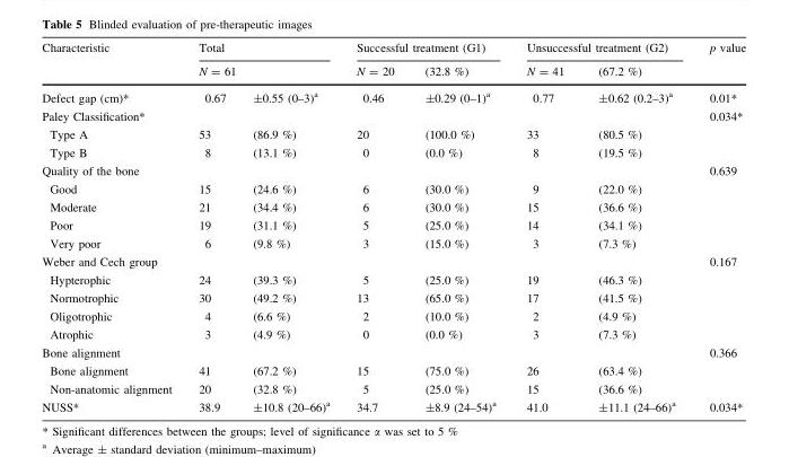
<table><thead><tr><td rowspan="3">Characteristic Defect gap (cm)*</td><td rowspan="2" colspan="2">Total N = 61</td><td colspan="2">Successful treatment (G1)</td><td colspan="2">Unsuccessful treatment (G2)</td><td rowspan="3">p value 0.01*</td></tr><tr><td rowspan="2">N = 20 0.46</td><td rowspan="2">(32.8 %) ±0.29 (0–1)a</td><td rowspan="2">N = 41 0.77</td><td rowspan="2">(67.2 %) ±0.62 (0.2–3)a</td></tr><tr><td>0.67</td><td>±0.55 (0–3)<sup>a</sup></td></tr></thead><tbody><tr><td>Paley Classification*</td><td></td><td></td><td></td><td></td><td></td><td></td><td>0.034*</td></tr><tr><td>Type A</td><td>53</td><td>(86.9 %)</td><td>20</td><td>(100.0 %)</td><td>33</td><td>(80.5 %)</td><td></td></tr><tr><td>Type B</td><td>8</td><td>(13.1 %)</td><td>0</td><td>(0.0 %)</td><td>8</td><td>(19.5 %)</td><td></td></tr><tr><td>Quality of the bone</td><td></td><td></td><td></td><td></td><td></td><td></td><td>0.639</td></tr><tr><td>Good</td><td>15</td><td>(24.6 %)</td><td>6</td><td>(30.0 %)</td><td>9</td><td>(22.0 %)</td><td></td></tr><tr><td>Moderate</td><td>21</td><td>(34.4 %)</td><td>6</td><td>(30.0 %)</td><td>15</td><td>(36.6 %)</td><td></td></tr><tr><td>Poor</td><td>19</td><td>(31.1 %)</td><td>5</td><td>(25.0 %)</td><td>14</td><td>(34.1 %)</td><td></td></tr><tr><td>Very poor</td><td>6</td><td>(9.8 %)</td><td>3</td><td>(15.0 %)</td><td>3</td><td>(7.3 %)</td><td></td></tr><tr><td>Weber and Cech group</td><td></td><td></td><td></td><td></td><td></td><td></td><td>0.167</td></tr><tr><td>Hypterophic</td><td>24</td><td>(39.3 %)</td><td>5</td><td>(25.0 %)</td><td>19</td><td>(46.3 %)</td><td></td></tr><tr><td>Normotrophic</td><td>30</td><td>(49.2 %)</td><td>13</td><td>(65.0 %)</td><td>17</td><td>(41.5 %)</td><td></td></tr><tr><td>Oligotrophic</td><td>4</td><td>(6.6 %)</td><td>2</td><td>(10.0 %)</td><td>2</td><td>(4.9 %)</td><td></td></tr><tr><td>Atrophic</td><td>3</td><td>(4.9 %)</td><td>0</td><td>(0.0 %)</td><td>3</td><td>(7.3 %)</td><td></td></tr><tr><td>Bone alignment</td><td></td><td></td><td></td><td></td><td></td><td></td><td>0.366</td></tr><tr><td>Bone alignment</td><td>41</td><td>(67.2 %)</td><td>15</td><td>(75.0 %)</td><td>26</td><td>(63.4 %)</td><td></td></tr><tr><td>Non-anatomic alignment</td><td>20</td><td>(32.8 %)</td><td>5</td><td>(25.0 %)</td><td>15</td><td>(36.6 %)</td><td></td></tr><tr><td>NUSS*</td><td>38.9</td><td>±10.8 (20–66)<sup>a</sup></td><td>34.7</td><td>±8.9 (24–54)<sup>a</sup></td><td>41.0</td><td>±11.1 (24–66)<sup>a</sup></td><td>0.034*</td></tr></tbody></table>